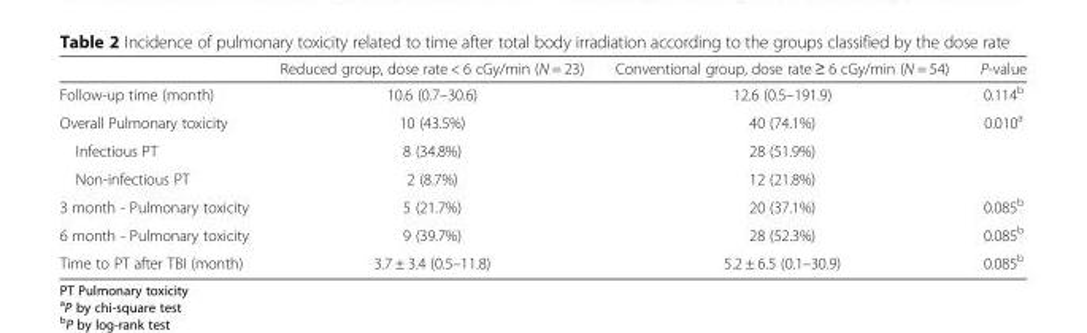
<table><thead><tr><td></td><td>Reduced group, dose rate &lt; 6 cGy/min (N = 23)</td><td>Conventional group, dose rate ≥ 6 cGy/min (N = 54)</td><td>P-value</td></tr></thead><tbody><tr><td>Follow-up time (month)</td><td>10.6 (0.7–30.6)</td><td>12.6 (0.5–191.9)</td><td>0.114<sup>b</sup></td></tr><tr><td>Overall Pulmonary toxicity</td><td>10 (43.5%)</td><td>40 (74.1%)</td><td>0.010<sup>a</sup></td></tr><tr><td>Infectious PT</td><td>8 (34.8%)</td><td>28 (51.9%)</td><td></td></tr><tr><td>Non-infectious PT</td><td>2 (8.7%)</td><td>12 (21.8%)</td><td></td></tr><tr><td>3 month - Pulmonary toxicity</td><td>5 (21.7%)</td><td>20 (37.1%)</td><td>0.085<sup>b</sup></td></tr><tr><td>6 month - Pulmonary toxicity</td><td>9 (39.7%)</td><td>28 (52.3%)</td><td>0.085<sup>b</sup></td></tr><tr><td>Time to PT after TBI (month)</td><td>3.7 ± 3.4 (0.5–11.8)</td><td>5.2 ± 6.5 (0.1–30.9)</td><td>0.085<sup>b</sup></td></tr></tbody></table>